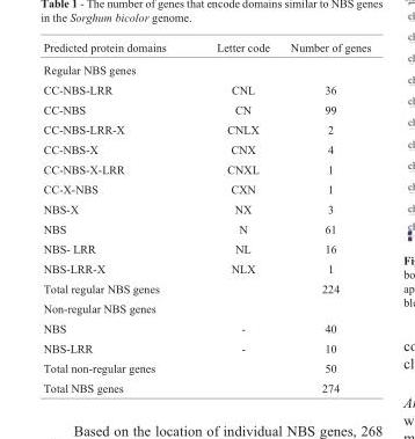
<table><thead><tr><td>Predicted protein domains</td><td>Letter code</td><td>Number of genes</td></tr></thead><tbody><tr><td colspan="3">Regular NBS genes</td></tr><tr><td>CC-NBS-LRR</td><td>CNL</td><td>36</td></tr><tr><td>CC-NBS</td><td>CN</td><td>99</td></tr><tr><td>CC-NBS-LRR-X</td><td>CNLX</td><td>2</td></tr><tr><td>CC-NBS-X</td><td>CNX</td><td>4</td></tr><tr><td>CC-NBS-X-LRR</td><td>CNXL</td><td>1</td></tr><tr><td>CC-X-NBS</td><td>CXN</td><td>1</td></tr><tr><td>NBS-X</td><td>NX</td><td>3</td></tr><tr><td>NBS</td><td>N</td><td>61</td></tr><tr><td>NBS- LRR</td><td>NL</td><td>16</td></tr><tr><td>NBS-LRR-X</td><td>NLX</td><td>1</td></tr><tr><td>Total regular NBS genes</td><td></td><td>224</td></tr><tr><td colspan="3">Non-regular NBS genes</td></tr><tr><td>NBS</td><td>-</td><td>40</td></tr><tr><td>NBS-LRR</td><td>-</td><td>10</td></tr><tr><td>Total non-regular genes</td><td></td><td>50</td></tr><tr><td>Total NBS genes</td><td></td><td>274</td></tr></tbody></table>